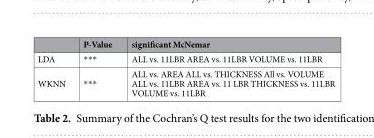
<table><thead><tr><td></td><td>P-Value</td><td>significant McNemar</td></tr></thead><tbody><tr><td>LDA</td><td>***</td><td>ALL vs. 11LBR AREA vs. 11LBR VOLUME vs. 11LBR</td></tr><tr><td>WKNN</td><td>***</td><td>ALL vs. AREA ALL vs. THICKNESS All vs. VOLUME ALL vs. 11LBR AREA vs. 11 LBR THICKNESS vs. 11LBR VOLUME vs. 11LBR</td></tr></tbody></table>